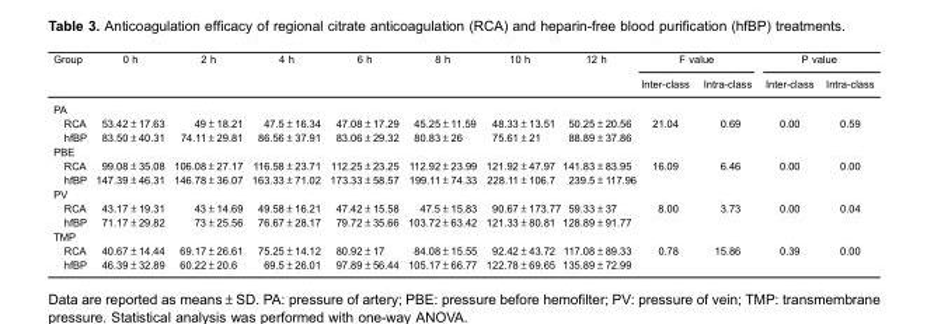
<table><thead><tr><td rowspan="2">Group</td><td rowspan="2">0 h</td><td rowspan="2">2 h</td><td rowspan="2">4 h</td><td rowspan="2">6 h</td><td rowspan="2">8 h</td><td rowspan="2">10 h</td><td rowspan="2">12 h</td><td colspan="2">F value</td><td colspan="2">P value</td></tr><tr><td>Inter-class</td><td>Intra-class</td><td>Inter-class</td><td>Intra-class</td></tr></thead><tbody><tr><td colspan="12">PA</td></tr><tr><td>RCA</td><td>53.42±17.63</td><td>49±18.21</td><td>47.5±16.34</td><td>47.08±17.29</td><td>45.25±11.59</td><td>48.33±13.51</td><td>50.25±20.56</td><td>21.04</td><td>0.69</td><td>0.00</td><td>0.59</td></tr><tr><td>hfBP</td><td>83.50±40.31</td><td>74.11±29.81</td><td>86.56±37.91</td><td>83.06±29.32</td><td>80.83±26</td><td>75.61±21</td><td>88.89±37.86</td><td></td><td></td><td></td><td></td></tr><tr><td colspan="12">PBE</td></tr><tr><td>RCA</td><td>99.08±35.08</td><td>106.08±27.17</td><td>116.58±23.71</td><td>112.25±23.25</td><td>112.92±23.99</td><td>121.92±47.97</td><td>141.83±83.95</td><td>16.09</td><td>6.46</td><td>0.00</td><td>0.00</td></tr><tr><td>hfBP</td><td>147.39±46.31</td><td>146.78±36.07</td><td>163.33±71.02</td><td>173.33±58.57</td><td>199.11±74.33</td><td>228.11±106.7</td><td>239.5±117.96</td><td></td><td></td><td></td><td></td></tr><tr><td colspan="12">PV</td></tr><tr><td>RCA</td><td>43.17±19.31</td><td>43±14.69</td><td>49.58±16.21</td><td>47.42±15.58</td><td>47.5±15.83</td><td>90.67±173.77</td><td>59.33±37</td><td>8.00</td><td>3.73</td><td>0.00</td><td>0.04</td></tr><tr><td>hfBP</td><td>71.17±29.82</td><td>73±25.56</td><td>76.67±28.17</td><td>79.72±35.66</td><td>103.72±63.42</td><td>121.33±80.81</td><td>128.89±91.77</td><td></td><td></td><td></td><td></td></tr><tr><td colspan="12">TMP</td></tr><tr><td>RCA</td><td>40.67±14.44</td><td>69.17±26.61</td><td>75.25±14.12</td><td>80.92±17</td><td>84.08±15.55</td><td>92.42±43.72</td><td>117.08±89.33</td><td>0.78</td><td>15.86</td><td>0.39</td><td>0.00</td></tr><tr><td>hfBP</td><td>46.39±32.89</td><td>60.22±20.6</td><td>69.5±26.01</td><td>97.89±56.44</td><td>105.17±66.77</td><td>122.78±69.65</td><td>135.89±72.99</td><td></td><td></td><td></td><td></td></tr></tbody></table>